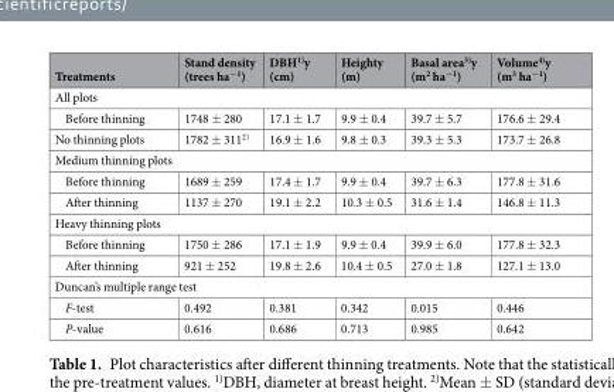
<table><thead><tr><td>Treatments</td><td>Stand density (trees ha<sup>−1</sup>)</td><td>DBH<sup>1)</sup>y (cm)</td><td>Heighty (m)</td><td>Basal area<sup>3)</sup>y (m<sup>2</sup> ha<sup>−1</sup>)</td><td>Volume<sup>4)</sup>y (m<sup>3</sup> ha<sup>−1</sup>)</td></tr></thead><tbody><tr><td colspan="6">All plots</td></tr><tr><td>Before thinning</td><td>1748 ± 280</td><td>17.1 ± 1.7</td><td>9.9 ± 0.4</td><td>39.7 ± 5.7</td><td>176.6 ± 29.4</td></tr><tr><td>No thinning plots</td><td>1782 ± 311<sup>2)</sup></td><td>16.9 ± 1.6</td><td>9.8 ± 0.3</td><td>39.3 ± 5.3</td><td>173.7 ± 26.8</td></tr><tr><td colspan="6">Medium thinning plots</td></tr><tr><td>Before thinning</td><td>1689 ± 259</td><td>17.4 ± 1.7</td><td>9.9 ± 0.4</td><td>39.7 ± 6.3</td><td>177.8 ± 31.6</td></tr><tr><td>After thinning</td><td>1137 ± 270</td><td>19.1 ± 2.2</td><td>10.3 ± 0.5</td><td>31.6 ± 1.4</td><td>146.8 ± 11.3</td></tr><tr><td colspan="6">Heavy thinning plots</td></tr><tr><td>Before thinning</td><td>1750 ± 286</td><td>17.1 ± 1.9</td><td>9.9 ± 0.4</td><td>39.9 ± 6.0</td><td>177.8 ± 32.3</td></tr><tr><td>After thinning</td><td>921 ± 252</td><td>19.8 ± 2.6</td><td>10.4 ± 0.5</td><td>27.0 ± 1.8</td><td>127.1 ± 13.0</td></tr><tr><td colspan="6">Duncan’s multiple range test</td></tr><tr><td>F-test</td><td>0.492</td><td>0.381</td><td>0.342</td><td>0.015</td><td>0.446</td></tr><tr><td>P-value</td><td>0.616</td><td>0.686</td><td>0.713</td><td>0.985</td><td>0.642</td></tr></tbody></table>